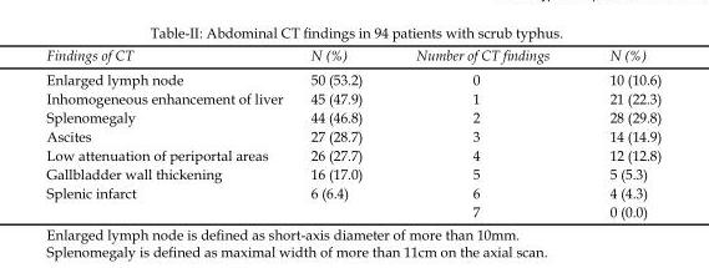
<table><thead><tr><td>Findings of CT</td><td>N (%)</td><td>Number of CT findings</td><td>N (%)</td></tr></thead><tbody><tr><td>Enlarged lymph node</td><td>50 (53.2)</td><td>0</td><td>10 (10.6)</td></tr><tr><td>Inhomogeneous enhancement of liver</td><td>45 (47.9)</td><td>1</td><td>21 (22.3)</td></tr><tr><td>Splenomegaly</td><td>44 (46.8)</td><td>2</td><td>28 (29.8)</td></tr><tr><td>Ascites</td><td>27 (28.7)</td><td>3</td><td>14 (14.9)</td></tr><tr><td>Low attenuation of periportal areas</td><td>26 (27.7)</td><td>4</td><td>12 (12.8)</td></tr><tr><td>Gallbladder wall thickening</td><td>16 (17.0)</td><td>5</td><td>5 (5.3)</td></tr><tr><td rowspan="2">Splenic infarct</td><td>6 (6.4)</td><td>6</td><td>4 (4.3)</td></tr><tr><td></td><td>7</td><td>0 (0.0)</td></tr></tbody></table>